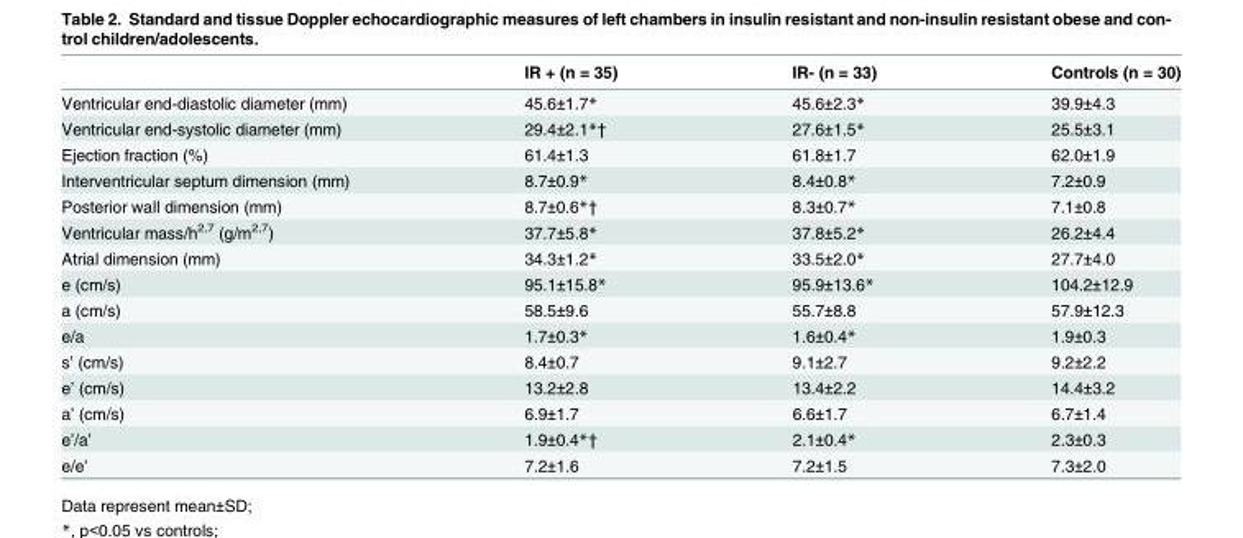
<table><thead><tr><td></td><td>IR + (n = 35)</td><td>IR- (n = 33)</td><td>Controls (n = 30)</td></tr></thead><tbody><tr><td>Ventricular end-diastolic diameter (mm)</td><td>45.6±1.7*</td><td>45.6±2.3*</td><td>39.9±4.3</td></tr><tr><td>Ventricular end-systolic diameter (mm)</td><td>29.4±2.1*†</td><td>27.6±1.5*</td><td>25.5±3.1</td></tr><tr><td>Ejection fraction (%)</td><td>61.4±1.3</td><td>61.8±1.7</td><td>62.0±1.9</td></tr><tr><td>Interventricular septum dimension (mm)</td><td>8.7±0.9*</td><td>8.4±0.8*</td><td>7.2±0.9</td></tr><tr><td>Posterior wall dimension (mm)</td><td>8.7±0.6*†</td><td>8.3±0.7*</td><td>7.1±0.8</td></tr><tr><td>Ventricular mass/h<sup>2,7</sup> (g/m<sup>2,7</sup>)</td><td>37.7±5.8*</td><td>37.8±5.2*</td><td>26.2±4.4</td></tr><tr><td>Atrial dimension (mm)</td><td>34.3±1.2*</td><td>33.5±2.0*</td><td>27.7±4.0</td></tr><tr><td>e (cm/s)</td><td>95.1±15.8*</td><td>95.9±13.6*</td><td>104.2±12.9</td></tr><tr><td>a (cm/s)</td><td>58.5±9.6</td><td>55.7±8.8</td><td>57.9±12.3</td></tr><tr><td>e/a</td><td>1.7±0.3*</td><td>1.6±0.4*</td><td>1.9±0.3</td></tr><tr><td>s’ (cm/s)</td><td>8.4±0.7</td><td>9.1±2.7</td><td>9.2±2.2</td></tr><tr><td>e’ (cm/s)</td><td>13.2±2.8</td><td>13.4±2.2</td><td>14.4±3.2</td></tr><tr><td>a’ (cm/s)</td><td>6.9±1.7</td><td>6.6±1.7</td><td>6.7±1.4</td></tr><tr><td>e’/a’</td><td>1.9±0.4*†</td><td>2.1±0.4*</td><td>2.3±0.3</td></tr><tr><td>e/e’</td><td>7.2±1.6</td><td>7.2±1.5</td><td>7.3±2.0</td></tr></tbody></table>